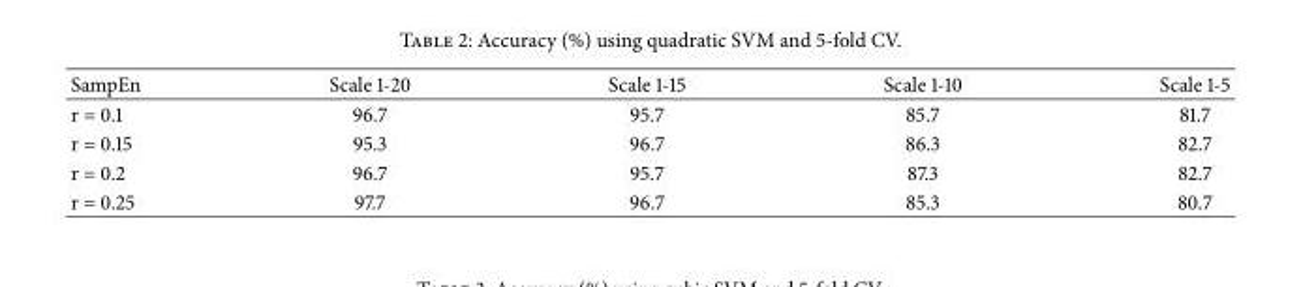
<table><thead><tr><td>SampEn</td><td>Scale 1-20</td><td>Scale 1-15</td><td>Scale 1-10</td><td>Scale 1-5</td></tr></thead><tbody><tr><td>r = 0.1</td><td>96.7</td><td>95.7</td><td>85.7</td><td>81.7</td></tr><tr><td>r = 0.15</td><td>95.3</td><td>96.7</td><td>86.3</td><td>82.7</td></tr><tr><td>r = 0.2</td><td>96.7</td><td>95.7</td><td>87.3</td><td>82.7</td></tr><tr><td>r = 0.25</td><td>97.7</td><td>96.7</td><td>85.3</td><td>80.7</td></tr></tbody></table>